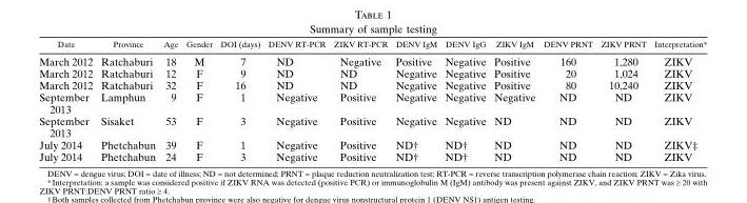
<table><thead><tr><td>Date</td><td>Province</td><td>Age</td><td>Gender</td><td>DOI (days)</td><td>DENV RT-PCR</td><td>ZIKV RT-PCR</td><td>DENV IgM</td><td>DENV IgG</td><td>ZIKV IgM</td><td>DENV PRNT</td><td>ZIKV PRNT</td><td>Interpretation*</td></tr></thead><tbody><tr><td>March 2012</td><td>Ratchaburi</td><td>18</td><td>M</td><td>7</td><td>ND</td><td>Negative</td><td>Positive</td><td>Negative</td><td>Positive</td><td>160</td><td>1,280</td><td>ZIKV</td></tr><tr><td>March 2012</td><td>Ratchaburi</td><td>12</td><td>F</td><td>9</td><td>ND</td><td>ND</td><td>Negative</td><td>Negative</td><td>Positive</td><td>20</td><td>1,024</td><td>ZIKV</td></tr><tr><td>March 2012</td><td>Ratchaburi</td><td>32</td><td>F</td><td>16</td><td>ND</td><td>ND</td><td>Negative</td><td>Negative</td><td>Positive</td><td>80</td><td>10,240</td><td>ZIKV</td></tr><tr><td>September 2013</td><td>Lamphun</td><td>9</td><td>F</td><td>1</td><td>Negative</td><td>Positive</td><td>Negative</td><td>Negative</td><td>Negative</td><td>ND</td><td>ND</td><td>ZIKV</td></tr><tr><td>September 2013</td><td>Sisaket</td><td>53</td><td>F</td><td>3</td><td>Negative</td><td>Positive</td><td>Negative</td><td>Negative</td><td>ND</td><td>ND</td><td>ND</td><td>ZIKV</td></tr><tr><td>July 2014</td><td>Phetchabun</td><td>39</td><td>F</td><td>1</td><td>Negative</td><td>Positive</td><td>ND†</td><td>ND†</td><td>ND</td><td>ND</td><td>ND</td><td>ZIKV‡</td></tr><tr><td>July 2014</td><td>Phetchabun</td><td>24</td><td>F</td><td>3</td><td>Negative</td><td>Positive</td><td>ND†</td><td>ND†</td><td>ND</td><td>ND</td><td>ND</td><td>ZIKV</td></tr></tbody></table>